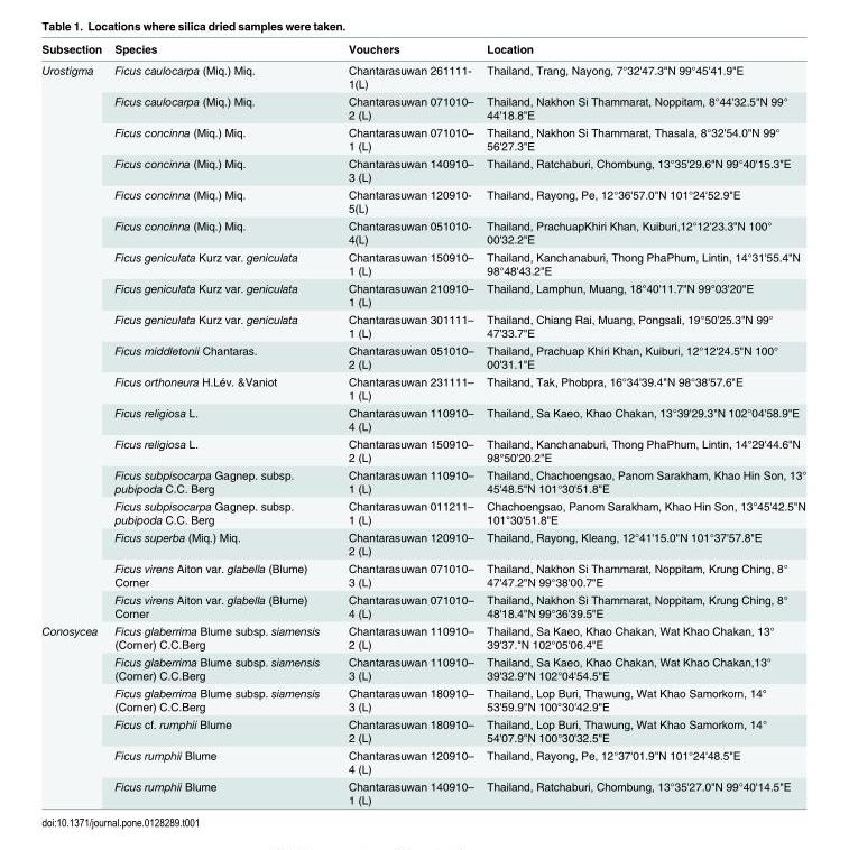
<table><thead><tr><td>Subsection</td><td>Species</td><td>Vouchers</td><td>Location</td></tr></thead><tbody><tr><td rowspan="18">Urostigma</td><td>Ficus caulocarpa (Miq.) Miq.</td><td>Chantarasuwan 261111- 1(L)</td><td>Thailand, Trang, Nayong, 7°32&#x27;47.3&quot;N 99°45&#x27;41.9&quot;E</td></tr><tr><td>Ficus caulocarpa (Miq.) Miq.</td><td>Chantarasuwan 071010– 2 (L)</td><td>Thailand, Nakhon Si Thammarat, Noppitam, 8°44&#x27;32.5&quot;N 99° 44&#x27;18.8&quot;E</td></tr><tr><td>Ficus concinna (Miq.) Miq.</td><td>Chantarasuwan 071010– 1 (L)</td><td>Thailand, Nakhon Si Thammarat, Thasala, 8°32&#x27;54.0&quot;N 99° 56&#x27;27.3&quot;E</td></tr><tr><td>Ficus concinna (Miq.) Miq.</td><td>Chantarasuwan 140910– 3 (L)</td><td>Thailand, Ratchaburi, Chombung, 13°35&#x27;29.6&quot;N 99°40&#x27;15.3&quot;E</td></tr><tr><td>Ficus concinna (Miq.) Miq.</td><td>Chantarasuwan 120910- 5(L)</td><td>Thailand, Rayong, Pe, 12°36&#x27;57.0&quot;N 101°24&#x27;52.9&quot;E</td></tr><tr><td>Ficus concinna (Miq.) Miq.</td><td>Chantarasuwan 051010- 4(L)</td><td>Thailand, PrachuapKhiri Khan, Kuiburi,12°12&#x27;23.3&quot;N 100° 00&#x27;32.2&quot;E</td></tr><tr><td>Ficus geniculata Kurz var. geniculata</td><td>Chantarasuwan 150910– 1 (L)</td><td>Thailand, Kanchanaburi, Thong PhaPhum, Lintin, 14°31&#x27;55.4&quot;N 98°48&#x27;43.2&quot;E</td></tr><tr><td>Ficus geniculata Kurz var. geniculata</td><td>Chantarasuwan 210910– 1 (L)</td><td>Thailand, Lamphun, Muang, 18°40&#x27;11.7&quot;N 99°03&#x27;20&quot;E</td></tr><tr><td>Ficus geniculata Kurz var. geniculata</td><td>Chantarasuwan 301111– 1 (L)</td><td>Thailand, Chiang Rai, Muang, Pongsali, 19°50&#x27;25.3&quot;N 99° 47&#x27;33.7&quot;E</td></tr><tr><td>Ficus middletonii Chantaras.</td><td>Chantarasuwan 051010– 2 (L)</td><td>Thailand, Prachuap Khiri Khan, Kuiburi, 12°12&#x27;24.5&quot;N 100° 00&#x27;31.1&quot;E</td></tr><tr><td>Ficus orthoneura H.Lév. &amp;Vaniot</td><td>Chantarasuwan 231111– 1 (L)</td><td>Thailand, Tak, Phobpra, 16°34&#x27;39.4&quot;N 98°38&#x27;57.6&quot;E</td></tr><tr><td>Ficus religiosa L.</td><td>Chantarasuwan 110910– 4 (L)</td><td>Thailand, Sa Kaeo, Khao Chakan, 13°39&#x27;29.3&quot;N 102°04&#x27;58.9&quot;E</td></tr><tr><td>Ficus religiosa L.</td><td>Chantarasuwan 150910– 2 (L)</td><td>Thailand, Kanchanaburi, Thong PhaPhum, Lintin, 14°29&#x27;44.6&quot;N 98°50&#x27;20.2&quot;E</td></tr><tr><td>Ficus subpisocarpa Gagnep. subsp. pubipoda C.C. Berg</td><td>Chantarasuwan 110910– 1 (L)</td><td>Thailand, Chachoengsao, Panom Sarakham, Khao Hin Son, 13° 45&#x27;48.5&quot;N 101°30&#x27;51.8&quot;E</td></tr><tr><td>Ficus subpisocarpa Gagnep. subsp. pubipoda C.C. Berg</td><td>Chantarasuwan 011211– 1 (L)</td><td>Chachoengsao, Panom Sarakham, Khao Hin Son, 13°45&#x27;42.5&quot;N 101°30&#x27;51.8&quot;E</td></tr><tr><td>Ficus superba (Miq.) Miq.</td><td>Chantarasuwan 120910– 2 (L)</td><td>Thailand, Rayong, Kleang, 12°41&#x27;15.0&quot;N 101°37&#x27;57.8&quot;E</td></tr><tr><td>Ficus virens Aiton var. glabella (Blume) Corner</td><td>Chantarasuwan 071010– 3 (L)</td><td>Thailand, Nakhon Si Thammarat, Noppitam, Krung Ching, 8° 47&#x27;47.2&quot;N 99°38&#x27;00.7&quot;E</td></tr><tr><td>Ficus virens Aiton var. glabella (Blume) Corner</td><td>Chantarasuwan 071010– 4 (L)</td><td>Thailand, Nakhon Si Thammarat, Noppitam, Krung Ching, 8° 48&#x27;18.4&quot;N 99°36&#x27;39.5&quot;E</td></tr><tr><td rowspan="6">Conosycea</td><td>Ficus glaberrima Blume subsp. siamensis (Corner) C.C.Berg</td><td>Chantarasuwan 110910– 2 (L)</td><td>Thailand, Sa Kaeo, Khao Chakan, Wat Khao Chakan, 13° 39&#x27;37.&quot;N 102°05&#x27;06.4&quot;E</td></tr><tr><td>Ficus glaberrima Blume subsp. siamensis (Corner) C.C.Berg</td><td>Chantarasuwan 110910– 3 (L)</td><td>Thailand, Sa Kaeo, Khao Chakan, Wat Khao Chakan,13° 39&#x27;32.9&quot;N 102°04&#x27;54.5&quot;E</td></tr><tr><td>Ficus glaberrima Blume subsp. siamensis (Corner) C.C.Berg</td><td>Chantarasuwan 180910– 3 (L)</td><td>Thailand, Lop Buri, Thawung, Wat Khao Samorkorn, 14° 53&#x27;59.9&quot;N 100°30&#x27;42.9&quot;E</td></tr><tr><td>Ficus cf. rumphii Blume</td><td>Chantarasuwan 180910– 2 (L)</td><td>Thailand, Lop Buri, Thawung, Wat Khao Samorkorn, 14° 54&#x27;07.9&quot;N 100°30&#x27;32.5&quot;E</td></tr><tr><td>Ficus rumphii Blume</td><td>Chantarasuwan 120910– 4 (L)</td><td>Thailand, Rayong, Pe, 12°37&#x27;01.9&quot;N 101°24&#x27;48.5&quot;E</td></tr><tr><td>Ficus rumphii Blume</td><td>Chantarasuwan 140910– 1 (L)</td><td>Thailand, Ratchaburi, Chombung, 13°35&#x27;27.0&quot;N 99°40&#x27;14.5&quot;E</td></tr></tbody></table>